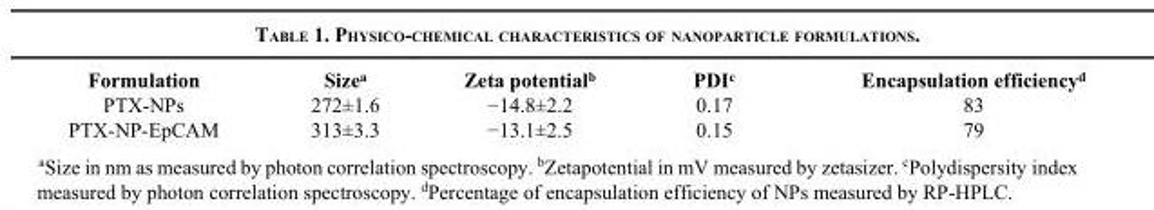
<table><thead><tr><td>Formulation</td><td>Sizea</td><td>Zeta potentialb</td><td>PDIc</td><td>Encapsulation efficiencyd</td></tr></thead><tbody><tr><td>PTX-NPs</td><td>272±1.6</td><td>−14.8±2.2</td><td>0.17</td><td>83</td></tr><tr><td>PTX-NP-EpCAM</td><td>313±3.3</td><td>−13.1±2.5</td><td>0.15</td><td>79</td></tr></tbody></table>